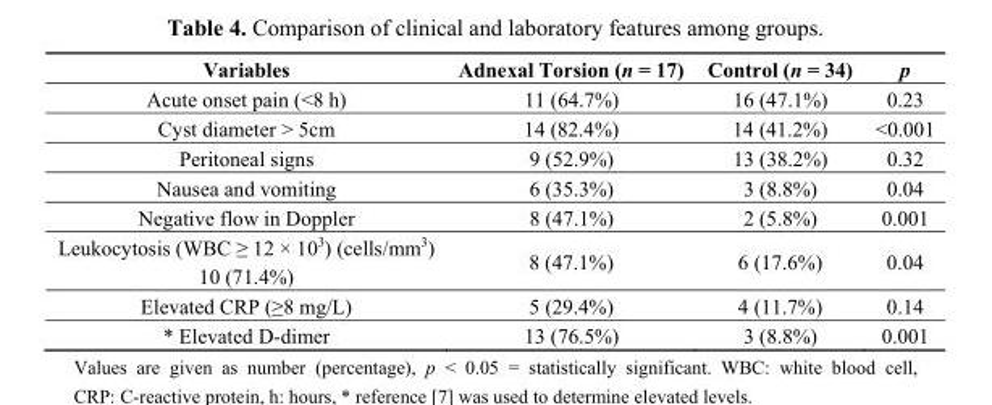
<table><thead><tr><td>Variables</td><td>Adnexal Torsion (n = 17)</td><td>Control (n = 34)</td><td>p</td></tr></thead><tbody><tr><td>Acute onset pain (&lt;8 h)</td><td>11 (64.7%)</td><td>16 (47.1%)</td><td>0.23</td></tr><tr><td>Cyst diameter &gt; 5cm</td><td>14 (82.4%)</td><td>14 (41.2%)</td><td>&lt;0.001</td></tr><tr><td>Peritoneal signs</td><td>9 (52.9%)</td><td>13 (38.2%)</td><td>0.32</td></tr><tr><td>Nausea and vomiting</td><td>6 (35.3%)</td><td>3 (8.8%)</td><td>0.04</td></tr><tr><td>Negative flow in Doppler</td><td>8 (47.1%)</td><td>2 (5.8%)</td><td>0.001</td></tr><tr><td>Leukocytosis (WBC ≥ 12 × 10<sup>3</sup>) (cells/mm<sup>3</sup>) 10 (71.4%)</td><td>8 (47.1%)</td><td>6 (17.6%)</td><td>0.04</td></tr><tr><td>Elevated CRP (≥8 mg/L)</td><td>5 (29.4%)</td><td>4 (11.7%)</td><td>0.14</td></tr><tr><td>* Elevated D-dimer</td><td>13 (76.5%)</td><td>3 (8.8%)</td><td>0.001</td></tr></tbody></table>